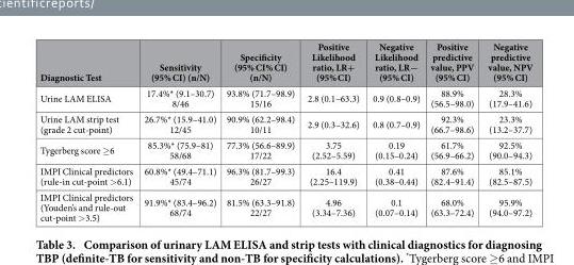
<table><thead><tr><td>Diagnostic Test</td><td>Sensitivity (95% CI) (n/N)</td><td>Specificity (95% CI% CI) (n/N)</td><td>Positive Likelihood ratio, LR+ (95% CI)</td><td>Negative Likelihood ratio, LR− (95% CI)</td><td>Positive predictive value, PPV (95% CI)</td><td>Negative predictive value, NPV (95% CI)</td></tr></thead><tbody><tr><td>Urine LAM ELISA</td><td>17.4%* (9.1–30.7) 8/46</td><td>93.8% (71.7–98.9) 15/16</td><td>2.8 (0.1–63.3)</td><td>0.9 (0.8–0.9)</td><td>88.9% (56.5–98.0)</td><td>28.3% (17.9–41.6)</td></tr><tr><td>Urine LAM strip test (grade 2 cut-point)</td><td>26.7%* (15.9–41.0) 12/45</td><td>90.9% (62.2–98.4) 10/11</td><td>2.9 (0.3–32.6)</td><td>0.8 (0.7–0.9)</td><td>92.3% (66.7–98.6)</td><td>23.3% (13.2–37.7)</td></tr><tr><td>Tygerberg score ≥ 6</td><td>85.3%* (75.9–81) 58/68</td><td>77.3% (56.6–89.9) 17/22</td><td>3.75 (2.52–5.59)</td><td>0.19 (0.15–0.24)</td><td>61.7% (56.9–66.2)</td><td>92.5% (90.0–94.3)</td></tr><tr><td>IMPI Clinical predictors (rule-in cut-point &gt; 6.1)</td><td>60.8%* (49.4–71.1) 45/74</td><td>96.3% (81.7–99.3) 26/27</td><td>16.4 (2.25–119.9)</td><td>0.41 (0.38–0.44)</td><td>87.6% (82.4–91.4)</td><td>85.1% (82.5–87.5)</td></tr><tr><td>IMPI Clinical predictors (Youden’s and rule-out cut-point &gt; 3.5)</td><td>91.9%* (83.4–96.2) 68/74</td><td>81.5% (63.3–91.8) 22/27</td><td>4.96 (3.34–7.36)</td><td>0.1 (0.07–0.14)</td><td>68.0% (63.3–72.4)</td><td>95.9% (94.0–97.2)</td></tr></tbody></table>